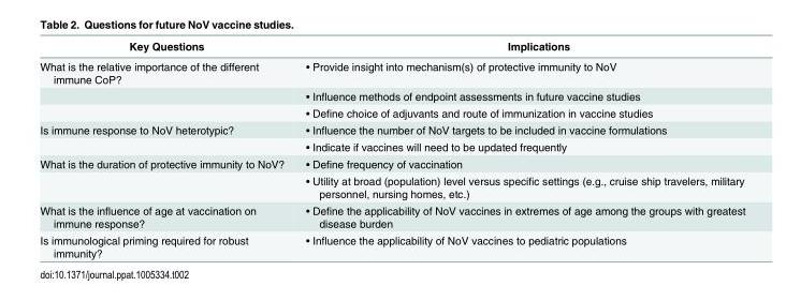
<table><thead><tr><td>Key Questions</td><td>Implications</td></tr></thead><tbody><tr><td rowspan="3">What is the relative importance of the different immune CoP?</td><td>• Provide insight into mechanism(s) of protective immunity to NoV</td></tr><tr><td>• Influence methods of endpoint assessments in future vaccine studies</td></tr><tr><td>• Define choice of adjuvants and route of immunization in vaccine studies</td></tr><tr><td rowspan="2">Is immune response to NoV heterotypic?</td><td>• Influence the number of NoV targets to be included in vaccine formulations</td></tr><tr><td>• Indicate if vaccines will need to be updated frequently</td></tr><tr><td rowspan="2">What is the duration of protective immunity to NoV?</td><td>• Define frequency of vaccination</td></tr><tr><td>• Utility at broad (population) level versus specific settings (e.g., cruise ship travelers, military personnel, nursing homes, etc.)</td></tr><tr><td>What is the influence of age at vaccination on immune response?</td><td>• Define the applicability of NoV vaccines in extremes of age among the groups with greatest disease burden</td></tr><tr><td>Is immunological priming required for robust immunity?</td><td>• Influence the applicability of NoV vaccines to pediatric populations</td></tr></tbody></table>